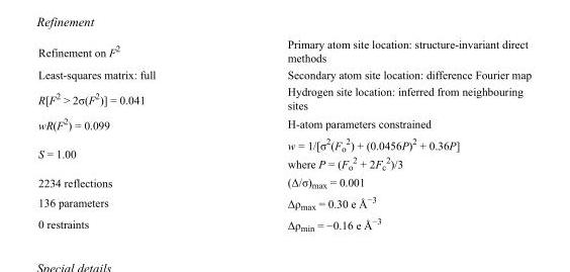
<table><tbody><tr><td>Refinement on F<sup>2</sup></td><td>Primary atom site location: structure-invariant direct methods</td></tr><tr><td>Least-squares matrix: full</td><td>Secondary atom site location: difference Fourier map</td></tr><tr><td>R[F<sup>2</sup> &gt; 2σ(F<sup>2</sup>)] = 0.041</td><td>Hydrogen site location: inferred from neighbouring sites</td></tr><tr><td>wR(F<sup>2</sup>) = 0.099</td><td>H-atom parameters constrained</td></tr><tr><td>S = 1.00</td><td>w = 1/[σ<sup>2</sup>(F<sub>o</sub> <sup>2</sup>) + (0.0456P)<sup>2</sup> + 0.36P] where P = (F<sub>o</sub> <sup>2</sup> + 2F<sub>c</sub> <sup>2</sup>)/3</td></tr><tr><td>2234 reflections</td><td>(Δ/σ)<sub>max</sub> = 0.001</td></tr><tr><td>136 parameters</td><td>Δρ<sub>max</sub> = 0.30 e Å<sup>−3</sup></td></tr><tr><td>0 restraints</td><td>Δρ<sub>min</sub> = −0.16 e Å<sup>−3</sup></td></tr></tbody></table>